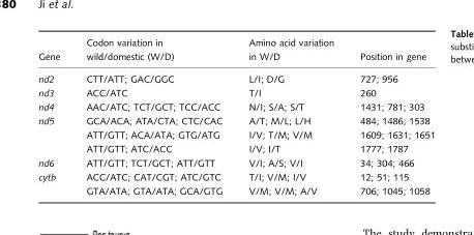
<table><thead><tr><td>Gene</td><td>Codon variation in wild/domestic (W/D)</td><td>Amino acid variation in W/D</td><td>Position in gene</td></tr></thead><tbody><tr><td>nd2</td><td>CTT/ATT; GAC/GGC</td><td>L/I; D/G</td><td>727; 956</td></tr><tr><td>nd3</td><td>ACC/ATC</td><td>T/I</td><td>260</td></tr><tr><td>nd4</td><td>AAC/ATC; TCT/GCT; TCC/ACC</td><td>N/I; S/A; S/T</td><td>1431; 781; 303</td></tr><tr><td rowspan="3">nd5</td><td>GCA/ACA; ATA/CTA; CTC/CAC</td><td>A/T; M/L; L/H</td><td>484; 1486; 1538</td></tr><tr><td>ATT/GTT; ACA/ATA; GTG/ATG</td><td>I/V; T/M; V/M</td><td>1609; 1631; 1651</td></tr><tr><td>ATT/GTT; ATC/ACC</td><td>I/V; I/T</td><td>1777; 1787</td></tr><tr><td>nd6</td><td>ATT/GTT; TCT/GCT; ATT/GTT</td><td>V/I; A/S; V/I</td><td>34; 304; 466</td></tr><tr><td rowspan="2">cytb</td><td>ACC/ATC; CAT/CGT; ATC/GTC</td><td>T/I; V/M; I/V</td><td>12; 51; 115</td></tr><tr><td>GTA/ATA; GTA/ATA; GCA/GTG</td><td>V/M; V/M; A/V</td><td>706; 1045; 1058</td></tr></tbody></table>